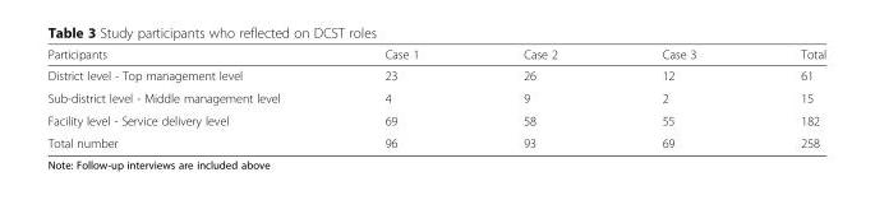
<table><thead><tr><td>Participants</td><td>Case 1</td><td>Case 2</td><td>Case 3</td><td>Total</td></tr></thead><tbody><tr><td>District level - Top management level</td><td>23</td><td>26</td><td>12</td><td>61</td></tr><tr><td>Sub-district level - Middle management level</td><td>4</td><td>9</td><td>2</td><td>15</td></tr><tr><td>Facility level - Service delivery level</td><td>69</td><td>58</td><td>55</td><td>182</td></tr><tr><td>Total number</td><td>96</td><td>93</td><td>69</td><td>258</td></tr></tbody></table>